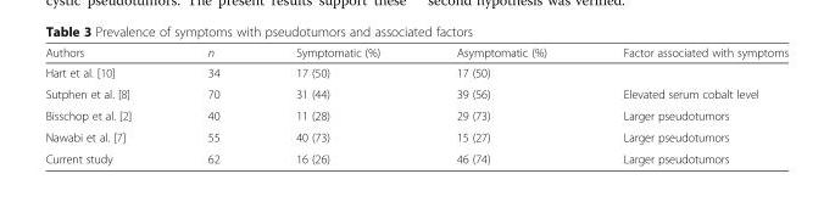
<table><thead><tr><td>Authors</td><td>n</td><td>Symptomatic (%)</td><td>Asymptomatic (%)</td><td>Factor associated with symptoms</td></tr></thead><tbody><tr><td>Hart et al. [10]</td><td>34</td><td>17 (50)</td><td>17 (50)</td><td></td></tr><tr><td>Sutphen et al. [8]</td><td>70</td><td>31 (44)</td><td>39 (56)</td><td>Elevated serum cobalt level</td></tr><tr><td>Bisschop et al. [2]</td><td>40</td><td>11 (28)</td><td>29 (73)</td><td>Larger pseudotumors</td></tr><tr><td>Nawabi et al. [7]</td><td>55</td><td>40 (73)</td><td>15 (27)</td><td>Larger pseudotumors</td></tr><tr><td>Current study</td><td>62</td><td>16 (26)</td><td>46 (74)</td><td>Larger pseudotumors</td></tr></tbody></table>